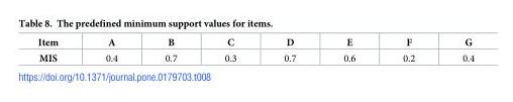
<table><thead><tr><td>Item</td><td>A</td><td>B</td><td>C</td><td>D</td><td>E</td><td>F</td><td>G</td></tr></thead><tbody><tr><td>MIS</td><td>0.4</td><td>0.7</td><td>0.3</td><td>0.7</td><td>0.6</td><td>0.2</td><td>0.4</td></tr></tbody></table>